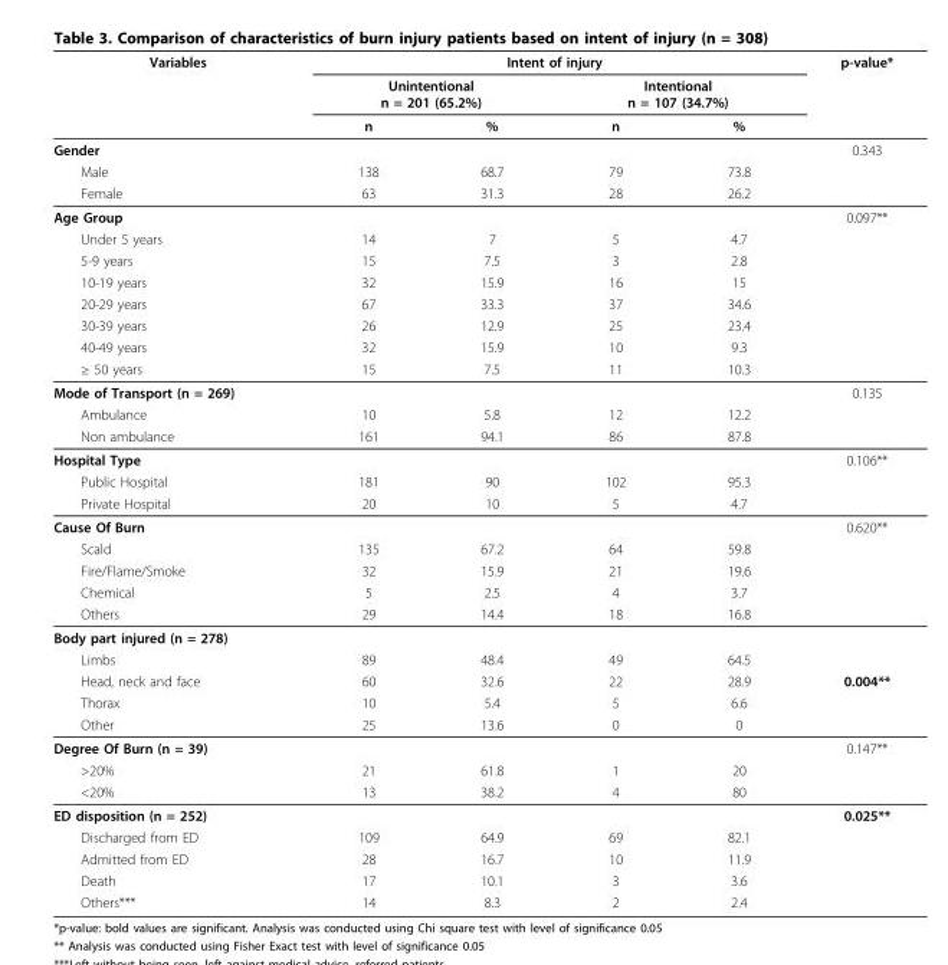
<table><thead><tr><td rowspan="3">Variables</td><td colspan="4">Intent of injury</td><td rowspan="3">p-value*</td></tr><tr><td colspan="2">Unintentional n = 201 (65.2%)</td><td colspan="2">Intentional n = 107 (34.7%)</td></tr><tr><td>n</td><td>%</td><td>n</td><td>%</td></tr></thead><tbody><tr><td>Gender</td><td></td><td></td><td></td><td></td><td>0.343</td></tr><tr><td>Male</td><td>138</td><td>68.7</td><td>79</td><td>73.8</td><td></td></tr><tr><td>Female</td><td>63</td><td>31.3</td><td>28</td><td>26.2</td><td></td></tr><tr><td>Age Group</td><td></td><td></td><td></td><td></td><td>0.097**</td></tr><tr><td>Under 5 years</td><td>14</td><td>7</td><td>5</td><td>4.7</td><td></td></tr><tr><td>5-9 years</td><td>15</td><td>7.5</td><td>3</td><td>2.8</td><td></td></tr><tr><td>10-19 years</td><td>32</td><td>15.9</td><td>16</td><td>15</td><td></td></tr><tr><td>20-29 years</td><td>67</td><td>33.3</td><td>37</td><td>34.6</td><td></td></tr><tr><td>30-39 years</td><td>26</td><td>12.9</td><td>25</td><td>23.4</td><td></td></tr><tr><td>40-49 years</td><td>32</td><td>15.9</td><td>10</td><td>9.3</td><td></td></tr><tr><td>≥ 50 years</td><td>15</td><td>7.5</td><td>11</td><td>10.3</td><td></td></tr><tr><td>Mode of Transport (n = 269)</td><td></td><td></td><td></td><td></td><td>0.135</td></tr><tr><td>Ambulance</td><td>10</td><td>5.8</td><td>12</td><td>12.2</td><td></td></tr><tr><td>Non ambulance</td><td>161</td><td>94.1</td><td>86</td><td>87.8</td><td></td></tr><tr><td>Hospital Type</td><td></td><td></td><td></td><td></td><td>0.106**</td></tr><tr><td>Public Hospital</td><td>181</td><td>90</td><td>102</td><td>95.3</td><td></td></tr><tr><td>Private Hospital</td><td>20</td><td>10</td><td>5</td><td>4.7</td><td></td></tr><tr><td>Cause Of Burn</td><td></td><td></td><td></td><td></td><td>0.620**</td></tr><tr><td>Scald</td><td>135</td><td>67.2</td><td>64</td><td>59.8</td><td></td></tr><tr><td>Fire/Flame/Smoke</td><td>32</td><td>15.9</td><td>21</td><td>19.6</td><td></td></tr><tr><td>Chemical</td><td>5</td><td>2.5</td><td>4</td><td>3.7</td><td></td></tr><tr><td>Others</td><td>29</td><td>14.4</td><td>18</td><td>16.8</td><td></td></tr><tr><td colspan="6">Body part injured (n = 278)</td></tr><tr><td>Limbs</td><td>89</td><td>48.4</td><td>49</td><td>64.5</td><td></td></tr><tr><td>Head, neck and face</td><td>60</td><td>32.6</td><td>22</td><td>28.9</td><td>0.004**</td></tr><tr><td>Thorax</td><td>10</td><td>5.4</td><td>5</td><td>6.6</td><td></td></tr><tr><td>Other</td><td>25</td><td>13.6</td><td>0</td><td>0</td><td></td></tr><tr><td>Degree Of Burn (n = 39)</td><td></td><td></td><td></td><td></td><td>0.147**</td></tr><tr><td>&gt;20%</td><td>21</td><td>61.8</td><td>1</td><td>20</td><td></td></tr><tr><td>&lt;20%</td><td>13</td><td>38.2</td><td>4</td><td>80</td><td></td></tr><tr><td>ED disposition (n = 252)</td><td></td><td></td><td></td><td></td><td>0.025**</td></tr><tr><td>Discharged from ED</td><td>109</td><td>64.9</td><td>69</td><td>82.1</td><td></td></tr><tr><td>Admitted from ED</td><td>28</td><td>16.7</td><td>10</td><td>11.9</td><td></td></tr><tr><td>Death</td><td>17</td><td>10.1</td><td>3</td><td>3.6</td><td></td></tr><tr><td>Others***</td><td>14</td><td>8.3</td><td>2</td><td>2.4</td><td></td></tr></tbody></table>